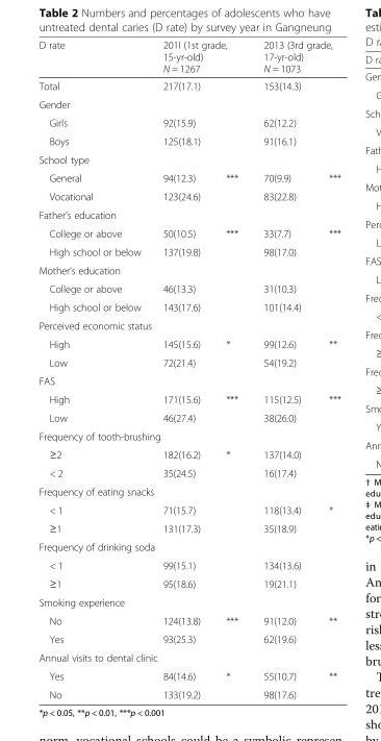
<table><thead><tr><td rowspan="2">D rate Total</td><td colspan="2">201l (1st grade, 15-yr-old) N = 1267</td><td colspan="2">2013 (3rd grade, 17-yr-old) N = 1073</td></tr><tr><td>217(17.1)</td><td></td><td>153(14.3)</td><td></td></tr></thead><tbody><tr><td colspan="5">Gender</td></tr><tr><td>Girls</td><td>92(15.9)</td><td></td><td>62(12.2)</td><td></td></tr><tr><td>Boys</td><td>125(18.1)</td><td></td><td>91(16.1)</td><td></td></tr><tr><td colspan="5">School type</td></tr><tr><td>General</td><td>94(12.3)</td><td>***</td><td>70(9.9)</td><td>***</td></tr><tr><td>Vocational</td><td>123(24.6)</td><td></td><td>83(22.8)</td><td></td></tr><tr><td colspan="5">Father’s education</td></tr><tr><td>College or above</td><td>50(10.5)</td><td>***</td><td>33(7.7)</td><td>***</td></tr><tr><td>High school or below</td><td>137(19.8)</td><td></td><td>98(17.0)</td><td></td></tr><tr><td colspan="5">Mother’s education</td></tr><tr><td>College or above</td><td>46(13.3)</td><td></td><td>31(10.3)</td><td></td></tr><tr><td>High school or below</td><td>143(17.6)</td><td></td><td>101(14.4)</td><td></td></tr><tr><td colspan="5">Perceived economic status</td></tr><tr><td>High</td><td>145(15.6)</td><td>*</td><td>99(12.6)</td><td>**</td></tr><tr><td>Low</td><td>72(21.4)</td><td></td><td>54(19.2)</td><td></td></tr><tr><td colspan="5">FAS</td></tr><tr><td>High</td><td>171(15.6)</td><td>***</td><td>115(12.5)</td><td>***</td></tr><tr><td>Low</td><td>46(27.4)</td><td></td><td>38(26.0)</td><td></td></tr><tr><td colspan="5">Frequency of tooth-brushing</td></tr><tr><td>≥2</td><td>182(16.2)</td><td>*</td><td>137(14.0)</td><td></td></tr><tr><td>&lt; 2</td><td>35(24.5)</td><td></td><td>16(17.4)</td><td></td></tr><tr><td colspan="5">Frequency of eating snacks</td></tr><tr><td>&lt; 1</td><td>71(15.7)</td><td></td><td>118(13.4)</td><td>*</td></tr><tr><td>≥1</td><td>131(17.3)</td><td></td><td>35(18.9)</td><td></td></tr><tr><td colspan="5">Frequency of drinking soda</td></tr><tr><td>&lt; 1</td><td>99(15.1)</td><td></td><td>134(13.6)</td><td></td></tr><tr><td>≥1</td><td>95(18.6)</td><td></td><td>19(21.1)</td><td></td></tr><tr><td colspan="5">Smoking experience</td></tr><tr><td>No</td><td>124(13.8)</td><td>***</td><td>91(12.0)</td><td>**</td></tr><tr><td>Yes</td><td>93(25.3)</td><td></td><td>62(19.6)</td><td></td></tr><tr><td colspan="5">Annual visits to dental clinic</td></tr><tr><td>Yes</td><td>84(14.6)</td><td>*</td><td>55(10.7)</td><td>**</td></tr><tr><td>No</td><td>133(19.2)</td><td></td><td>98(17.6)</td><td></td></tr></tbody></table>